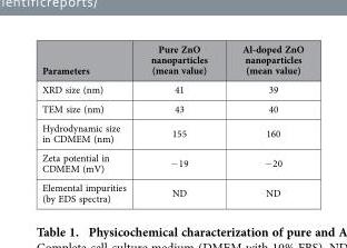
<table><thead><tr><td>Parameters</td><td>Pure ZnO nanoparticles (mean value)</td><td>Al-doped ZnO nanoparticles (mean value)</td></tr></thead><tbody><tr><td>XRD size (nm)</td><td>41</td><td>39</td></tr><tr><td>TEM size (nm)</td><td>43</td><td>40</td></tr><tr><td>Hydrodynamic size in CDMEM (nm)</td><td>155</td><td>160</td></tr><tr><td>Zeta potential in CDMEM (mV)</td><td>− 19</td><td>− 20</td></tr><tr><td>Elemental impurities (by EDS spectra)</td><td>ND</td><td>ND</td></tr></tbody></table>